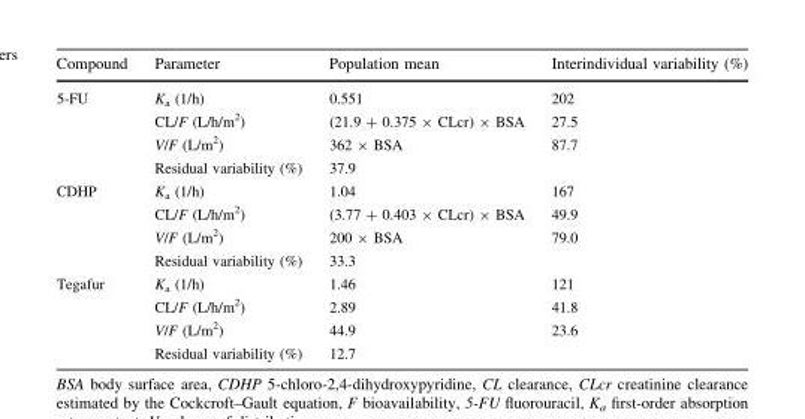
<table><thead><tr><td>Compound</td><td>Parameter</td><td>Population mean</td><td>Interindividual variability (%)</td></tr></thead><tbody><tr><td rowspan="4">5-FU</td><td>K<sub>a</sub> (1/h)</td><td>0.551</td><td>202</td></tr><tr><td>CL/F (L/h/m<sup>2</sup>)</td><td>(21.9 + 0.375 × CLcr) × BSA</td><td>27.5</td></tr><tr><td>V/F (L/m<sup>2</sup>)</td><td>362 × BSA</td><td>87.7</td></tr><tr><td>Residual variability (%)</td><td>37.9</td><td></td></tr><tr><td rowspan="4">CDHP</td><td>K<sub>a</sub> (1/h)</td><td>1.04</td><td>167</td></tr><tr><td>CL/F (L/h/m<sup>2</sup>)</td><td>(3.77 + 0.403 × CLcr) × BSA</td><td>49.9</td></tr><tr><td>V/F (L/m<sup>2</sup>)</td><td>200 × BSA</td><td>79.0</td></tr><tr><td>Residual variability (%)</td><td>33.3</td><td></td></tr><tr><td rowspan="4">Tegafur</td><td>K<sub>a</sub> (1/h)</td><td>1.46</td><td>121</td></tr><tr><td>CL/F (L/h/m<sup>2</sup>)</td><td>2.89</td><td>41.8</td></tr><tr><td>V/F (L/m<sup>2</sup>)</td><td>44.9</td><td>23.6</td></tr><tr><td>Residual variability (%)</td><td>12.7</td><td></td></tr></tbody></table>